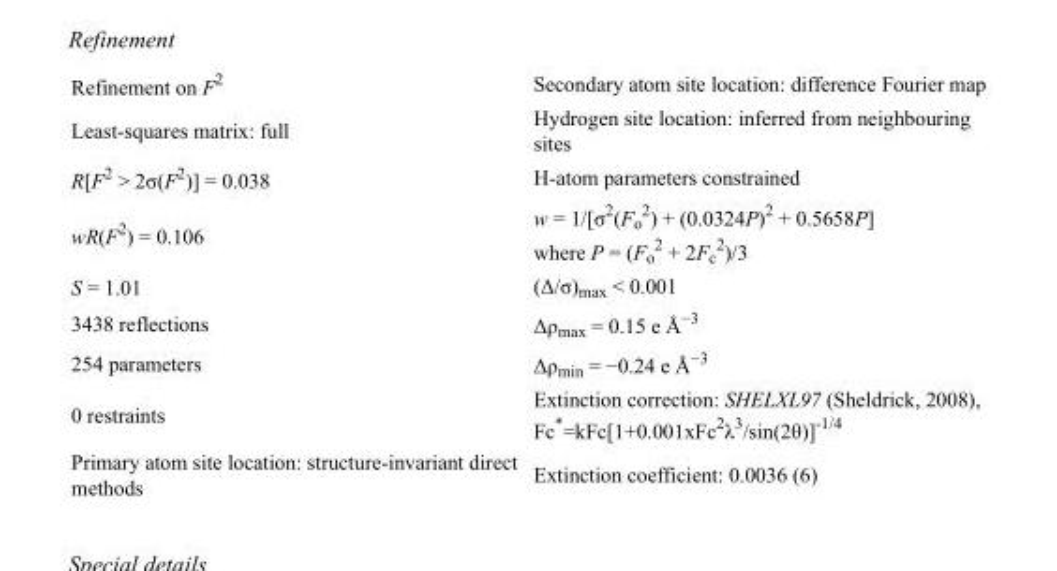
<table><tbody><tr><td>Refinement on F<sup>2</sup></td><td>Secondary atom site location: difference Fourier map</td></tr><tr><td>Least-squares matrix: full</td><td>Hydrogen site location: inferred from neighbouring sites</td></tr><tr><td>R[F<sup>2</sup> &gt; 2σ(F<sup>2</sup>)] = 0.038</td><td>H-atom parameters constrained</td></tr><tr><td>wR(F<sup>2</sup>) = 0.106</td><td>w = 1/[σ<sup>2</sup>(F<sub>o</sub> <sup>2</sup>) + (0.0324P)<sup>2</sup> + 0.5658P] where P = (F<sub>o</sub> <sup>2</sup> + 2F<sub>c</sub> <sup>2</sup>)/3</td></tr><tr><td>S = 1.01</td><td>(Δ/σ)<sub>max</sub> &lt; 0.001</td></tr><tr><td>3438 reflections</td><td>Δρ<sub>max</sub> = 0.15 e Å<sup>−3</sup></td></tr><tr><td>254 parameters</td><td>Δρ<sub>min</sub> = −0.24 e Å<sup>−3</sup></td></tr><tr><td>0 restraints</td><td>Extinction correction: SHELXL97 (Sheldrick, 2008), Fc*=kFc[1+0.001xFc<sup>2</sup>λ<sup>3</sup>/sin(2θ)]<sup>-1/4</sup></td></tr><tr><td>Primary atom site location: structure-invariant direct methods</td><td>Extinction coefficient: 0.0036 (6)</td></tr></tbody></table>